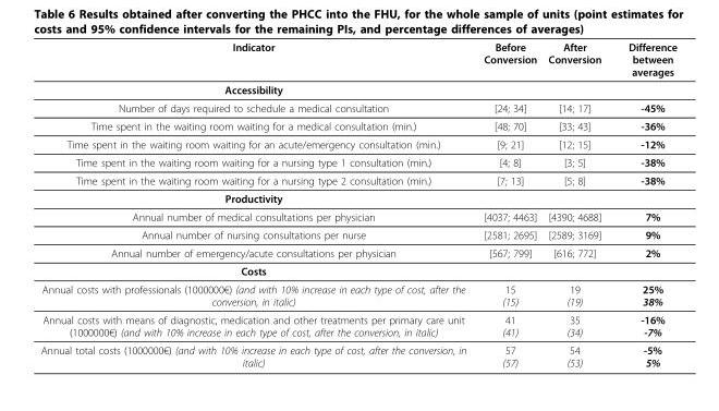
<table><thead><tr><td>Indicator</td><td>Before Conversion</td><td>After Conversion</td><td>Difference between averages</td></tr></thead><tbody><tr><td colspan="4">Accessibility</td></tr><tr><td>Number of days required to schedule a medical consultation</td><td>[24; 34]</td><td>[14; 17]</td><td>-45%</td></tr><tr><td>Time spent in the waiting room waiting for a medical consultation (min.)</td><td>[48; 70]</td><td>[33; 43]</td><td>-36%</td></tr><tr><td>Time spent in the waiting room waiting for an acute/emergency consultation (min.)</td><td>[9; 21]</td><td>[12; 15]</td><td>-12%</td></tr><tr><td>Time spent in the waiting room waiting for a nursing type 1 consultation (min.)</td><td>[4; 8]</td><td>[3; 5]</td><td>-38%</td></tr><tr><td>Time spent in the waiting room waiting for a nursing type 2 consultation (min.)</td><td>[7; 13]</td><td>[5; 8]</td><td>-38%</td></tr><tr><td colspan="4">Productivity</td></tr><tr><td>Annual number of medical consultations per physician</td><td>[4037; 4463]</td><td>[4390; 4688]</td><td>7%</td></tr><tr><td>Annual number of nursing consultations per nurse</td><td>[2581; 2695]</td><td>[2589; 3169]</td><td>9%</td></tr><tr><td>Annual number of emergency/acute consultations per physician</td><td>[567; 799]</td><td>[616; 772]</td><td>2%</td></tr><tr><td colspan="4">Costs</td></tr><tr><td>Annual costs with professionals (1000000€) (and with 10% increase in each type of cost, after the conversion, in italic)</td><td>15 (15)</td><td>19 (19)</td><td>25% 38%</td></tr><tr><td>Annual costs with means of diagnostic, medication and other treatments per primary care unit (1000000€) (and with 10% increase in each type of cost, after the conversion, in italic)</td><td>41 (41)</td><td>35 (34)</td><td>-16% -7%</td></tr><tr><td>Annual total costs (1000000€) (and with 10% increase in each type of cost, after the conversion, in italic)</td><td>57 (57)</td><td>54 (53)</td><td>-5% 5%</td></tr></tbody></table>